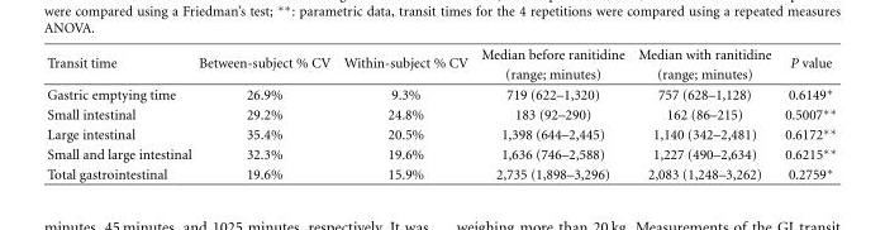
<table><thead><tr><td rowspan="2">Transit time</td><td rowspan="2">Between-subject % CV</td><td rowspan="2">Within-subject % CV</td><td rowspan="2">Median before ranitidine (range; minutes)</td><td rowspan="2">Median with ranitidine (range; minutes)</td><td rowspan="2">P value</td></tr><tr></tr></thead><tbody><tr><td>Gastric emptying time</td><td>26.9%</td><td>9.3%</td><td>719 (622–1,320)</td><td>757 (628–1,128)</td><td>0.6149∗</td></tr><tr><td>Small intestinal</td><td>29.2%</td><td>24.8%</td><td>183 (92–290)</td><td>162 (86–215)</td><td>0.5007∗∗</td></tr><tr><td>Large intestinal</td><td>35.4%</td><td>20.5%</td><td>1,398 (644–2,445)</td><td>1,140 (342–2,481)</td><td>0.6172∗∗</td></tr><tr><td>Small and large intestinal</td><td>32.3%</td><td>19.6%</td><td>1,636 (746–2,588)</td><td>1,227 (490–2,634)</td><td>0.6215∗∗</td></tr><tr><td>Total gastrointestinal</td><td>19.6%</td><td>15.9%</td><td>2,735 (1,898–3,296)</td><td>2,083 (1,248–3,262)</td><td>0.2759∗</td></tr></tbody></table>